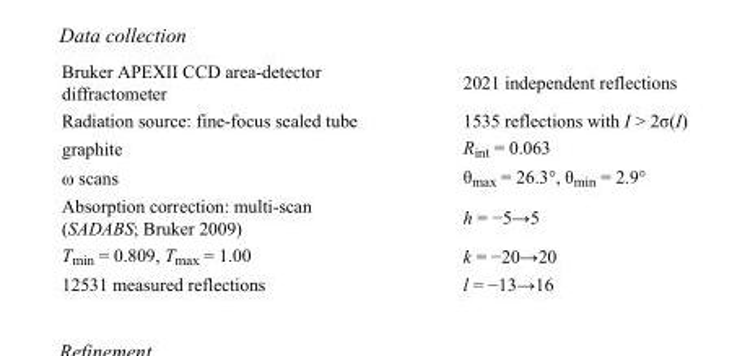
<table><tbody><tr><td>Bruker APEXII CCD area-detector diffractometer</td><td>2021 independent reflections</td></tr><tr><td>Radiation source: fine-focus sealed tube</td><td>1535 reflections with I &gt; 2σ(I)</td></tr><tr><td>graphite</td><td>R<sub>int</sub> = 0.063</td></tr><tr><td>ω scans</td><td>θ<sub>max</sub> = 26.3°, θ<sub>min</sub> = 2.9°</td></tr><tr><td>Absorption correction: multi-scan (SADABS; Bruker 2009)</td><td>h = −5→5</td></tr><tr><td>T<sub>min</sub> = 0.809, T<sub>max</sub> = 1.00</td><td>k = −20→20</td></tr><tr><td>12531 measured reflections</td><td>l = −13→16</td></tr></tbody></table>